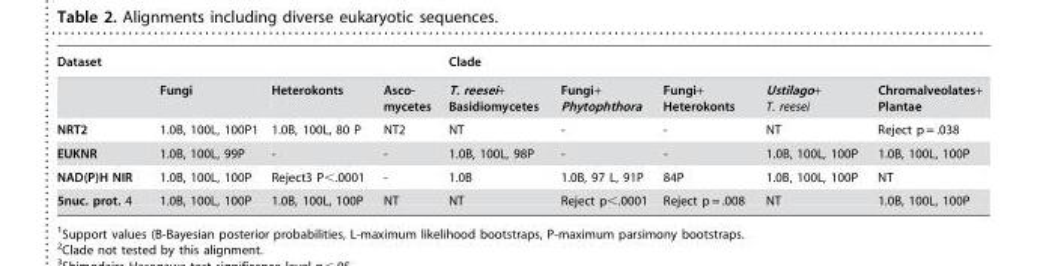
<table><thead><tr><td colspan="4">Dataset</td><td colspan="5">Clade</td></tr><tr><td></td><td>Fungi</td><td>Heterokonts</td><td>Asco- mycetes</td><td>T. reesei+ Basidiomycetes</td><td>Fungi+ Phytophthora</td><td>Fungi+ Heterokonts</td><td>Ustilago+ T. reesei</td><td>Chromalveolates+ Plantae</td></tr></thead><tbody><tr><td>NRT2</td><td>1.0B, 100L, 100P1</td><td>1.0B, 100L, 80 P</td><td>NT2</td><td>NT</td><td>-</td><td>-</td><td>NT</td><td>Reject p = .038</td></tr><tr><td>EUKNR</td><td>1.0B, 100L, 99P</td><td>-</td><td>-</td><td>1.0B, 100L, 98P</td><td>-</td><td>-</td><td>1.0B, 100L, 100P</td><td>1.0B, 100L, 100P</td></tr><tr><td>NAD(P)H NIR</td><td>1.0B, 100L, 100P</td><td>Reject3 P&lt;.0001</td><td>-</td><td>1.0B</td><td>1.0B, 97 L, 91P</td><td>84P</td><td>1.0B, 100L, 100P</td><td>NT</td></tr><tr><td>5nuc. prot. 4</td><td>1.0B, 100L, 100P</td><td>1.0B, 100L, 100P</td><td>NT</td><td>NT</td><td>Reject p&lt;.0001</td><td>Reject p = .008</td><td>NT</td><td>1.0B, 100L, 100P</td></tr></tbody></table>